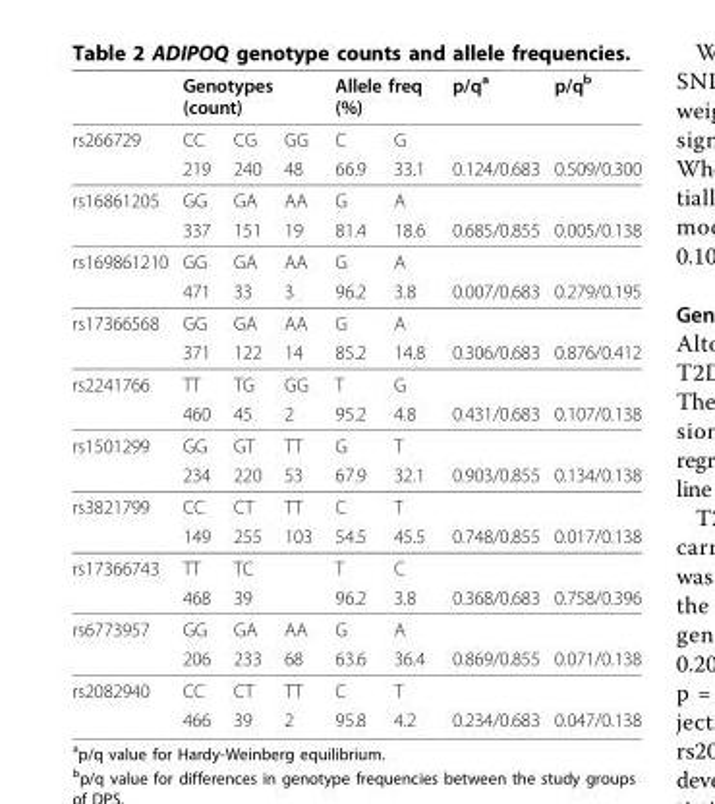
<table><thead><tr><td rowspan="2">rs266729</td><td colspan="3">Genotypes (count)</td><td colspan="2">Allele freq (%)</td><td rowspan="2">p/q<sup>a</sup></td><td rowspan="2">p/q<sup>b</sup></td></tr><tr><td>CC</td><td>CG</td><td>GG</td><td>C</td><td>G</td></tr></thead><tbody><tr><td></td><td>219</td><td>240</td><td>48</td><td>66.9</td><td>33.1</td><td>0.124/0.683</td><td>0.509/0.300</td></tr><tr><td rowspan="2">rs16861205</td><td>GG</td><td>GA</td><td>AA</td><td>G</td><td>A</td><td></td><td></td></tr><tr><td>337</td><td>151</td><td>19</td><td>81.4</td><td>18.6</td><td>0.685/0.855</td><td>0.005/0.138</td></tr><tr><td rowspan="2">rs169861210</td><td>GG</td><td>GA</td><td>AA</td><td>G</td><td>A</td><td></td><td></td></tr><tr><td>471</td><td>33</td><td>3</td><td>96.2</td><td>3.8</td><td>0.007/0.683</td><td>0.279/0.195</td></tr><tr><td rowspan="2">rs17366568</td><td>GG</td><td>GA</td><td>AA</td><td>G</td><td>A</td><td></td><td></td></tr><tr><td>371</td><td>122</td><td>14</td><td>85.2</td><td>14.8</td><td>0.306/0.683</td><td>0.876/0.412</td></tr><tr><td rowspan="2">rs2241766</td><td>TT</td><td>TG</td><td>GG</td><td>T</td><td>G</td><td></td><td></td></tr><tr><td>460</td><td>45</td><td>2</td><td>95.2</td><td>4.8</td><td>0.431/0.683</td><td>0.107/0.138</td></tr><tr><td rowspan="2">rs1501299</td><td>GG</td><td>GT</td><td>TT</td><td>G</td><td>T</td><td></td><td></td></tr><tr><td>234</td><td>220</td><td>53</td><td>67.9</td><td>32.1</td><td>0.903/0.855</td><td>0.134/0.138</td></tr><tr><td rowspan="2">rs3821799</td><td>CC</td><td>CT</td><td>TT</td><td>C</td><td>T</td><td></td><td></td></tr><tr><td>149</td><td>255</td><td>103</td><td>54.5</td><td>45.5</td><td>0.748/0.855</td><td>0.017/0.138</td></tr><tr><td rowspan="2">rs17366743</td><td>TT</td><td>TC</td><td></td><td>T</td><td>C</td><td></td><td></td></tr><tr><td>468</td><td>39</td><td></td><td>96.2</td><td>3.8</td><td>0.368/0.683</td><td>0.758/0.396</td></tr><tr><td rowspan="2">rs6773957</td><td>GG</td><td>GA</td><td>AA</td><td>G</td><td>A</td><td></td><td></td></tr><tr><td>206</td><td>233</td><td>68</td><td>63.6</td><td>36.4</td><td>0.869/0.855</td><td>0.071/0.138</td></tr><tr><td rowspan="2">rs2082940</td><td>CC</td><td>CT</td><td>TT</td><td>C</td><td>T</td><td></td><td></td></tr><tr><td>466</td><td>39</td><td>2</td><td>95.8</td><td>4.2</td><td>0.234/0.683</td><td>0.047/0.138</td></tr></tbody></table>